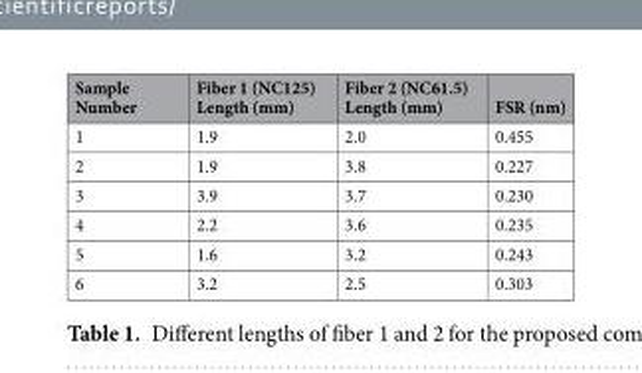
<table><thead><tr><td>Sample Number</td><td>Fiber 1 (NC125) Length (mm)</td><td>Fiber 2 (NC61.5) Length (mm)</td><td>FSR (nm)</td></tr></thead><tbody><tr><td>1</td><td>1.9</td><td>2.0</td><td>0.455</td></tr><tr><td>2</td><td>1.9</td><td>3.8</td><td>0.227</td></tr><tr><td>3</td><td>3.9</td><td>3.7</td><td>0.230</td></tr><tr><td>4</td><td>2.2</td><td>3.6</td><td>0.235</td></tr><tr><td>5</td><td>1.6</td><td>3.2</td><td>0.243</td></tr><tr><td>6</td><td>3.2</td><td>2.5</td><td>0.303</td></tr></tbody></table>